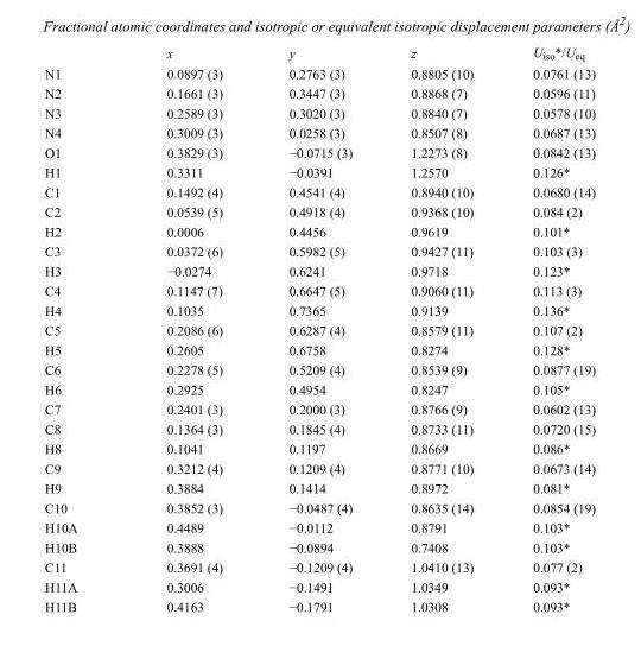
<table><thead><tr><td></td><td>x</td><td>y</td><td>z</td><td>U<sub>iso</sub>*/U<sub>eq</sub></td></tr></thead><tbody><tr><td>N1</td><td>0.0897 (3)</td><td>0.2763 (3)</td><td>0.8805 (10)</td><td>0.0761 (13)</td></tr><tr><td>N2</td><td>0.1661 (3)</td><td>0.3447 (3)</td><td>0.8868 (7)</td><td>0.0596 (11)</td></tr><tr><td>N3</td><td>0.2589 (3)</td><td>0.3020 (3)</td><td>0.8840 (7)</td><td>0.0578 (10)</td></tr><tr><td>N4</td><td>0.3009 (3)</td><td>0.0258 (3)</td><td>0.8507 (8)</td><td>0.0687 (13)</td></tr><tr><td>O1</td><td>0.3829 (3)</td><td>−0.0715 (3)</td><td>1.2273 (8)</td><td>0.0842 (13)</td></tr><tr><td>H1</td><td>0.3311</td><td>−0.0391</td><td>1.2570</td><td>0.126*</td></tr><tr><td>C1</td><td>0.1492 (4)</td><td>0.4541 (4)</td><td>0.8940 (10)</td><td>0.0680 (14)</td></tr><tr><td>C2</td><td>0.0539 (5)</td><td>0.4918 (4)</td><td>0.9368 (10)</td><td>0.084 (2)</td></tr><tr><td>H2</td><td>0.0006</td><td>0.4456</td><td>0.9619</td><td>0.101*</td></tr><tr><td>C3</td><td>0.0372 (6)</td><td>0.5982 (5)</td><td>0.9427 (11)</td><td>0.103 (3)</td></tr><tr><td>H3</td><td>−0.0274</td><td>0.6241</td><td>0.9718</td><td>0.123*</td></tr><tr><td>C4</td><td>0.1147 (7)</td><td>0.6647 (5)</td><td>0.9060 (11)</td><td>0.113 (3)</td></tr><tr><td>H4</td><td>0.1035</td><td>0.7365</td><td>0.9139</td><td>0.136*</td></tr><tr><td>C5</td><td>0.2086 (6)</td><td>0.6287 (4)</td><td>0.8579 (11)</td><td>0.107 (2)</td></tr><tr><td>H5</td><td>0.2605</td><td>0.6758</td><td>0.8274</td><td>0.128*</td></tr><tr><td>C6</td><td>0.2278 (5)</td><td>0.5209 (4)</td><td>0.8539 (9)</td><td>0.0877 (19)</td></tr><tr><td>H6</td><td>0.2925</td><td>0.4954</td><td>0.8247</td><td>0.105*</td></tr><tr><td>C7</td><td>0.2401 (3)</td><td>0.2000 (3)</td><td>0.8766 (9)</td><td>0.0602 (13)</td></tr><tr><td>C8</td><td>0.1364 (3)</td><td>0.1845 (4)</td><td>0.8733 (11)</td><td>0.0720 (15)</td></tr><tr><td>H8</td><td>0.1041</td><td>0.1197</td><td>0.8669</td><td>0.086*</td></tr><tr><td>C9</td><td>0.3212 (4)</td><td>0.1209 (4)</td><td>0.8771 (10)</td><td>0.0673 (14)</td></tr><tr><td>H9</td><td>0.3884</td><td>0.1414</td><td>0.8972</td><td>0.081*</td></tr><tr><td>C10</td><td>0.3852 (3)</td><td>−0.0487 (4)</td><td>0.8635 (14)</td><td>0.0854 (19)</td></tr><tr><td>H10A</td><td>0.4489</td><td>−0.0112</td><td>0.8791</td><td>0.103*</td></tr><tr><td>H10B</td><td>0.3888</td><td>−0.0894</td><td>0.7408</td><td>0.103*</td></tr><tr><td>C11</td><td>0.3691 (4)</td><td>−0.1209 (4)</td><td>1.0410 (13)</td><td>0.077 (2)</td></tr><tr><td>H11A</td><td>0.3006</td><td>−0.1491</td><td>1.0349</td><td>0.093*</td></tr><tr><td>H11B</td><td>0.4163</td><td>−0.1791</td><td>1.0308</td><td>0.093*</td></tr></tbody></table>